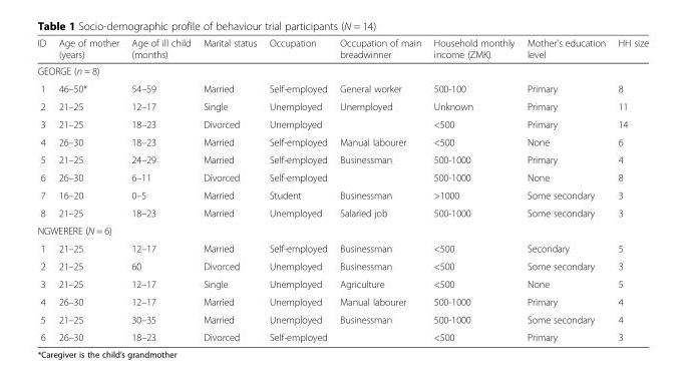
<table><thead><tr><td>ID</td><td>Age of mother (years)</td><td>Age of ill child (months)</td><td>Marital status</td><td>Occupation</td><td>Occupation of main breadwinner</td><td>Household monthly income (ZMK)</td><td>Mother&#x27;s education level</td><td>HH size</td></tr></thead><tbody><tr><td colspan="9">GEORGE (n = 8)</td></tr><tr><td>1</td><td>46–50*</td><td>54–59</td><td>Married</td><td>Self-employed</td><td>General worker</td><td>500-100</td><td>Primary</td><td>8</td></tr><tr><td>2</td><td>21–25</td><td>12–17</td><td>Single</td><td>Unemployed</td><td>Unemployed</td><td>Unknown</td><td>Primary</td><td>11</td></tr><tr><td>3</td><td>21–25</td><td>18–23</td><td>Divorced</td><td>Unemployed</td><td></td><td>&lt;500</td><td>Primary</td><td>14</td></tr><tr><td>4</td><td>26–30</td><td>18–23</td><td>Married</td><td>Self-employed</td><td>Manual labourer</td><td>&lt;500</td><td>None</td><td>6</td></tr><tr><td>5</td><td>21–25</td><td>24–29</td><td>Married</td><td>Self-employed</td><td>Businessman</td><td>500-1000</td><td>Primary</td><td>4</td></tr><tr><td>6</td><td>26–30</td><td>6–11</td><td>Divorced</td><td>Self-employed</td><td></td><td>500-1000</td><td>None</td><td>8</td></tr><tr><td>7</td><td>16–20</td><td>0–5</td><td>Married</td><td>Student</td><td>Businessman</td><td>&gt;1000</td><td>Some secondary</td><td>3</td></tr><tr><td>8</td><td>21–25</td><td>18–23</td><td>Married</td><td>Unemployed</td><td>Salaried job</td><td>500-1000</td><td>Some secondary</td><td>3</td></tr><tr><td colspan="9">NGWERERE (N = 6)</td></tr><tr><td>1</td><td>21–25</td><td>12–17</td><td>Married</td><td>Self-employed</td><td>Businessman</td><td>&lt;500</td><td>Secondary</td><td>5</td></tr><tr><td>2</td><td>21–25</td><td>60</td><td>Divorced</td><td>Unemployed</td><td>Businessman</td><td>&lt;500</td><td>Some secondary</td><td>3</td></tr><tr><td>3</td><td>21–25</td><td>12–17</td><td>Single</td><td>Unemployed</td><td>Agriculture</td><td>&lt;500</td><td>None</td><td>5</td></tr><tr><td>4</td><td>26–30</td><td>12–17</td><td>Married</td><td>Unemployed</td><td>Manual labourer</td><td>500-1000</td><td>Primary</td><td>4</td></tr><tr><td>5</td><td>21–25</td><td>30–35</td><td>Married</td><td>Unemployed</td><td>Businessman</td><td>500-1000</td><td>Some secondary</td><td>4</td></tr><tr><td>6</td><td>26–30</td><td>18–23</td><td>Divorced</td><td>Self-employed</td><td></td><td>&lt;500</td><td>Primary</td><td>3</td></tr></tbody></table>